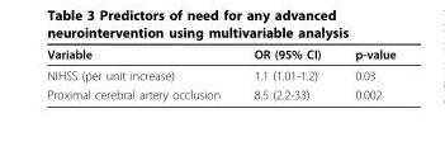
<table><thead><tr><td>Variable</td><td>OR (95% CI)</td><td>p-value</td></tr></thead><tbody><tr><td>NIHSS (per unit increase)</td><td>1.1 (1.01-1.2)</td><td>0.03</td></tr><tr><td>Proximal cerebral artery occlusion</td><td>8.5 (2.2-33)</td><td>0.002</td></tr></tbody></table>